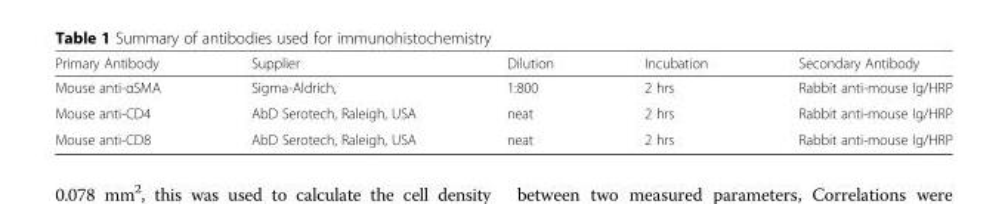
<table><thead><tr><td>Primary Antibody</td><td>Supplier</td><td>Dilution</td><td>Incubation</td><td>Secondary Antibody</td></tr></thead><tbody><tr><td>Mouse anti-αSMA</td><td>Sigma-Aldrich,</td><td>1:800</td><td>2 hrs</td><td>Rabbit anti-mouse Ig/HRP</td></tr><tr><td>Mouse anti-CD4</td><td>AbD Serotech, Raleigh, USA</td><td>neat</td><td>2 hrs</td><td>Rabbit anti-mouse Ig/HRP</td></tr><tr><td>Mouse anti-CD8</td><td>AbD Serotech, Raleigh, USA</td><td>neat</td><td>2 hrs</td><td>Rabbit anti-mouse Ig/HRP</td></tr></tbody></table>